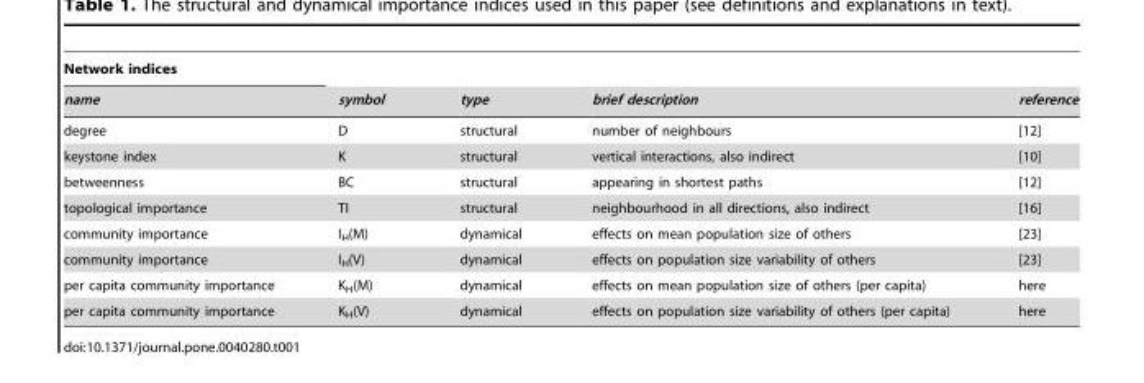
<table><thead><tr><td rowspan="2">Network indices name</td><td rowspan="2">symbol</td><td rowspan="2">type</td><td rowspan="2">brief description</td><td rowspan="2">reference</td></tr><tr></tr></thead><tbody><tr><td>degree</td><td>D</td><td>structural</td><td>number of neighbours</td><td>[12]</td></tr><tr><td>keystone index</td><td>K</td><td>structural</td><td>vertical interactions, also indirect</td><td>[10]</td></tr><tr><td>betweenness</td><td>BC</td><td>structural</td><td>appearing in shortest paths</td><td>[12]</td></tr><tr><td>topological importance</td><td>TI</td><td>structural</td><td>neighbourhood in all directions, also indirect</td><td>[16]</td></tr><tr><td>community importance</td><td>I<sub>H</sub>(M)</td><td>dynamical</td><td>effects on mean population size of others</td><td>[23]</td></tr><tr><td>community importance</td><td>I<sub>H</sub>(V)</td><td>dynamical</td><td>effects on population size variability of others</td><td>[23]</td></tr><tr><td>per capita community importance</td><td>K<sub>H</sub>(M)</td><td>dynamical</td><td>effects on mean population size of others (per capita)</td><td>here</td></tr><tr><td>per capita community importance</td><td>K<sub>H</sub>(V)</td><td>dynamical</td><td>effects on population size variability of others (per capita)</td><td>here</td></tr></tbody></table>